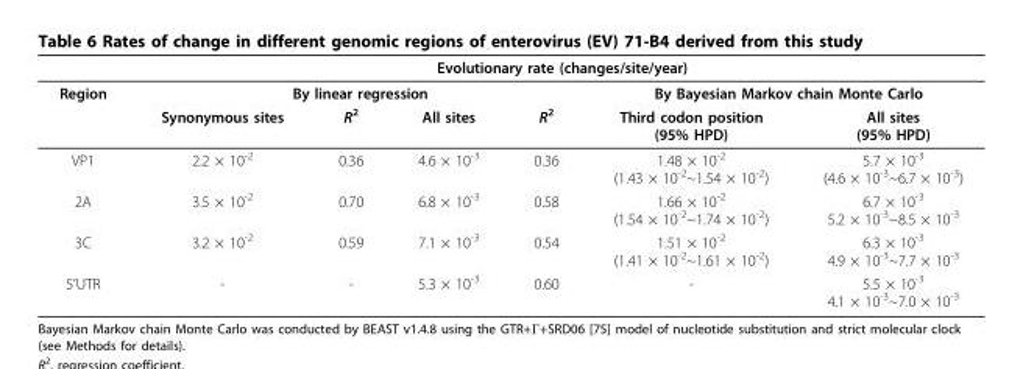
<table><thead><tr><td rowspan="3">Region</td><td colspan="6">Evolutionary rate (changes/site/year)</td></tr><tr><td colspan="4">By linear regression</td><td colspan="2">By Bayesian Markov chain Monte Carlo</td></tr><tr><td>Synonymous sites</td><td>R<sup>2</sup></td><td>All sites</td><td>R<sup>2</sup></td><td>Third codon position (95% HPD)</td><td>All sites (95% HPD)</td></tr></thead><tbody><tr><td>VP1</td><td>2.2 × 10<sup>-2</sup></td><td>0.36</td><td>4.6 × 10<sup>-3</sup></td><td>0.36</td><td>1.48 × 10<sup>-2</sup> (1.43 × 10<sup>-2</sup>~1.54 × 10<sup>-2</sup>)</td><td>5.7 × 10<sup>-3</sup> (4.6 × 10<sup>-3</sup>~6.7 × 10<sup>-3</sup>)</td></tr><tr><td>2A</td><td>3.5 × 10<sup>-2</sup></td><td>0.70</td><td>6.8 × 10<sup>-3</sup></td><td>0.58</td><td>1.66 × 10<sup>-2</sup> (1.54 × 10<sup>-2</sup>~1.74 × 10<sup>-2</sup>)</td><td>6.7 × 10<sup>-3</sup> 5.2 × 10<sup>-3</sup>~8.5 × 10<sup>-3</sup></td></tr><tr><td>3C</td><td>3.2 × 10<sup>-2</sup></td><td>0.59</td><td>7.1 × 10<sup>-3</sup></td><td>0.54</td><td>1.51 × 10<sup>-2</sup> (1.41 × 10<sup>-2</sup>~1.61 × 10<sup>-2</sup>)</td><td>6.3 × 10<sup>-3</sup> 4.9 × 10<sup>-3</sup>~7.7 × 10<sup>-3</sup></td></tr><tr><td>5’UTR</td><td>-</td><td>-</td><td>5.3 × 10<sup>-3</sup></td><td>0.60</td><td>-</td><td>5.5 × 10<sup>-3</sup> 4.1 × 10<sup>-3</sup>~7.0 × 10<sup>-3</sup></td></tr></tbody></table>